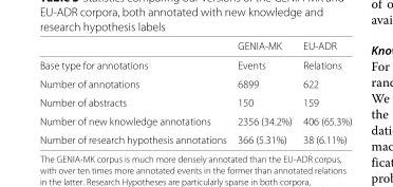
<table><thead><tr><td></td><td>GENIA-MK</td><td>EU-ADR</td></tr></thead><tbody><tr><td>Base type for annotations</td><td>Events</td><td>Relations</td></tr><tr><td>Number of annotations</td><td>6899</td><td>622</td></tr><tr><td>Number of abstracts</td><td>150</td><td>159</td></tr><tr><td>Number of new knowledge annotations</td><td>2356 (34.2%)</td><td>406 (65.3%)</td></tr><tr><td>Number of research hypothesis annotations</td><td>366 (5.31%)</td><td>38 (6.11%)</td></tr></tbody></table>